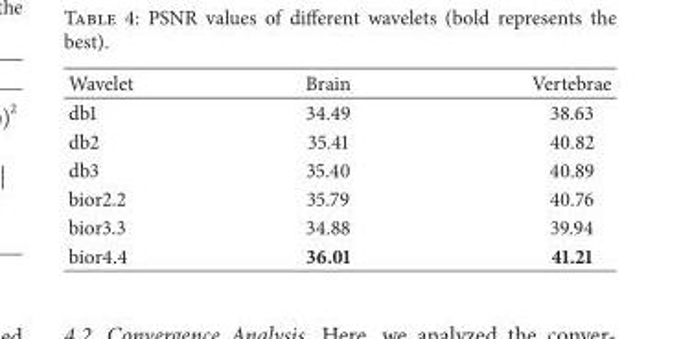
<table><thead><tr><td>Wavelet</td><td>Brain</td><td>Vertebrae</td></tr></thead><tbody><tr><td>db1</td><td>34.49</td><td>38.63</td></tr><tr><td>db2</td><td>35.41</td><td>40.82</td></tr><tr><td>db3</td><td>35.40</td><td>40.89</td></tr><tr><td>bior2.2</td><td>35.79</td><td>40.76</td></tr><tr><td>bior3.3</td><td>34.88</td><td>39.94</td></tr><tr><td>bior4.4</td><td>36.01</td><td>41.21</td></tr></tbody></table>